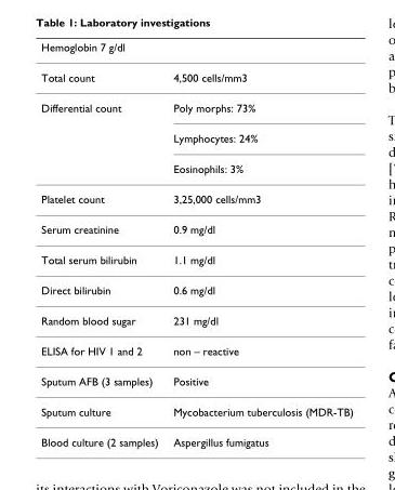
<table><thead><tr><td>Hemoglobin 7 g/dl</td><td></td></tr></thead><tbody><tr><td>Total count</td><td>4,500 cells/mm3</td></tr><tr><td rowspan="3">Differential count</td><td>Poly morphs: 73%</td></tr><tr><td>Lymphocytes: 24%</td></tr><tr><td>Eosinophils: 3%</td></tr><tr><td>Platelet count</td><td>3,25,000 cells/mm3</td></tr><tr><td>Serum creatinine</td><td>0.9 mg/dl</td></tr><tr><td>Total serum bilirubin</td><td>1.1 mg/dl</td></tr><tr><td>Direct bilirubin</td><td>0.6 mg/dl</td></tr><tr><td>Random blood sugar</td><td>231 mg/dl</td></tr><tr><td>ELISA for HIV 1 and 2</td><td>non – reactive</td></tr><tr><td>Sputum AFB (3 samples)</td><td>Positive</td></tr><tr><td>Sputum culture</td><td>Mycobacterium tuberculosis (MDR-TB)</td></tr><tr><td>Blood culture (2 samples)</td><td>Aspergillus fumigatus</td></tr></tbody></table>